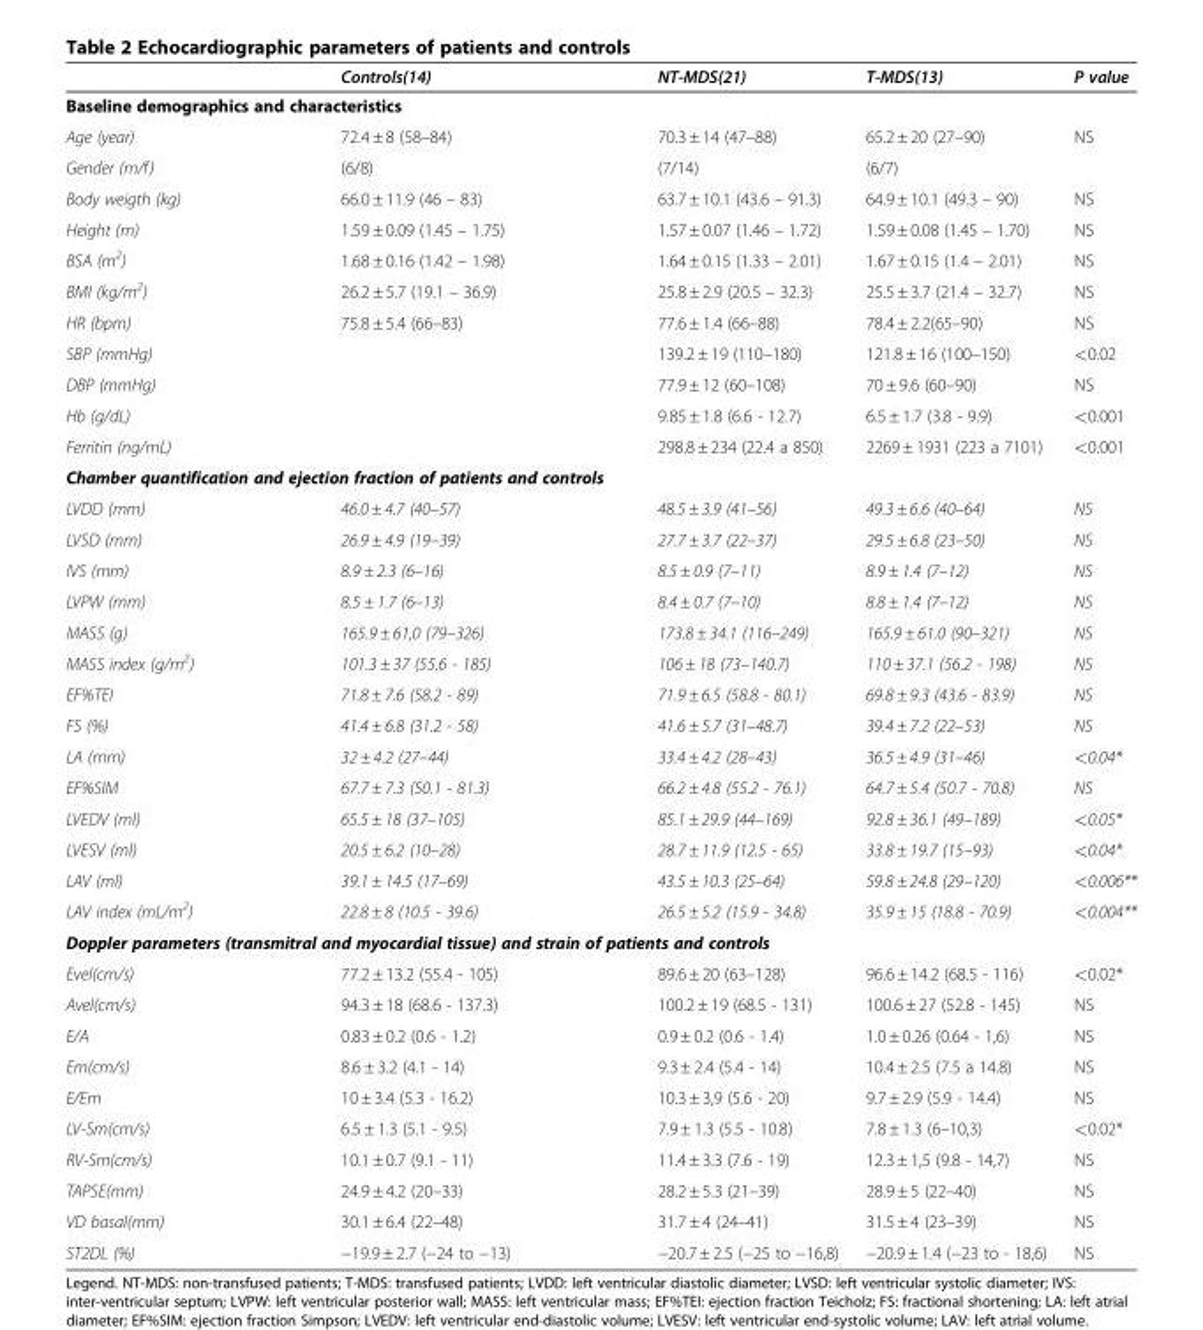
<table><thead><tr><td></td><td>Controls(14)</td><td>NT-MDS(21)</td><td>T-MDS(13)</td><td>P value</td></tr></thead><tbody><tr><td colspan="5">Baseline demographics and characteristics</td></tr><tr><td>Age (year)</td><td>72.4 ± 8 (58–84)</td><td>70.3 ± 14 (47–88)</td><td>65.2 ± 20 (27–90)</td><td>NS</td></tr><tr><td>Gender (m/f)</td><td>(6/8)</td><td>(7/14)</td><td>(6/7)</td><td></td></tr><tr><td>Body weigth (kg)</td><td>66.0 ± 11.9 (46 – 83)</td><td>63.7 ± 10.1 (43.6 – 91.3)</td><td>64.9 ± 10.1 (49.3 – 90)</td><td>NS</td></tr><tr><td>Height (m)</td><td>1.59 ± 0.09 (1.45 – 1.75)</td><td>1.57 ± 0.07 (1.46 – 1.72)</td><td>1.59 ± 0.08 (1.45 – 1.70)</td><td>NS</td></tr><tr><td>BSA (m<sup>2</sup>)</td><td>1.68 ± 0.16 (1.42 – 1.98)</td><td>1.64 ± 0.15 (1.33 – 2.01)</td><td>1.67 ± 0.15 (1.4 – 2.01)</td><td>NS</td></tr><tr><td>BMI (kg/m<sup>2</sup>)</td><td>26.2 ± 5.7 (19.1 – 36.9)</td><td>25.8 ± 2.9 (20.5 – 32.3)</td><td>25.5 ± 3.7 (21.4 – 32.7)</td><td>NS</td></tr><tr><td>HR (bpm)</td><td>75.8 ± 5.4 (66–83)</td><td>77.6 ± 1.4 (66–88)</td><td>78.4 ± 2.2(65–90)</td><td>NS</td></tr><tr><td>SBP (mmHg)</td><td></td><td>139.2 ± 19 (110–180)</td><td>121.8 ± 16 (100–150)</td><td>&lt;0.02</td></tr><tr><td>DBP (mmHg)</td><td></td><td>77.9 ± 12 (60–108)</td><td>70 ± 9.6 (60–90)</td><td>NS</td></tr><tr><td>Hb (g/dL)</td><td></td><td>9.85 ± 1.8 (6.6 - 12.7)</td><td>6.5 ± 1.7 (3.8 - 9.9)</td><td>&lt;0.001</td></tr><tr><td>Ferritin (ng/mL)</td><td></td><td>298.8 ± 234 (22.4 a 850)</td><td>2269 ± 1931 (223 a 7101)</td><td>&lt;0.001</td></tr><tr><td colspan="5">Chamber quantification and ejection fraction of patients and controls</td></tr><tr><td>LVDD (mm)</td><td>46.0 ± 4.7 (40–57)</td><td>48.5 ± 3.9 (41–56)</td><td>49.3 ± 6.6 (40–64)</td><td>NS</td></tr><tr><td>LVSD (mm)</td><td>26.9 ± 4.9 (19–39)</td><td>27.7 ± 3.7 (22–37)</td><td>29.5 ± 6.8 (23–50)</td><td>NS</td></tr><tr><td>IVS (mm)</td><td>8.9 ± 2.3 (6–16)</td><td>8.5 ± 0.9 (7–11)</td><td>8.9 ± 1.4 (7–12)</td><td>NS</td></tr><tr><td>LVPW (mm)</td><td>8.5 ± 1.7 (6–13)</td><td>8.4 ± 0.7 (7–10)</td><td>8.8 ± 1.4 (7–12)</td><td>NS</td></tr><tr><td>MASS (g)</td><td>165.9 ± 61,0 (79–326)</td><td>173.8 ± 34.1 (116–249)</td><td>165.9 ± 61.0 (90–321)</td><td>NS</td></tr><tr><td>MASS index (g/m<sup>2</sup>)</td><td>101.3 ± 37 (55.6 - 185)</td><td>106 ± 18 (73–140.7)</td><td>110 ± 37.1 (56.2 - 198)</td><td>NS</td></tr><tr><td>EF%TEI</td><td>71.8 ± 7.6 (58.2 - 89)</td><td>71.9 ± 6.5 (58.8 - 80.1)</td><td>69.8 ± 9.3 (43.6 - 83.9)</td><td>NS</td></tr><tr><td>FS (%)</td><td>41.4 ± 6.8 (31.2 - 58)</td><td>41.6 ± 5.7 (31–48.7)</td><td>39.4 ± 7.2 (22–53)</td><td>NS</td></tr><tr><td>LA (mm)</td><td>32 ± 4.2 (27–44)</td><td>33.4 ± 4.2 (28–43)</td><td>36.5 ± 4.9 (31–46)</td><td>&lt;0.04*</td></tr><tr><td>EF%SIM</td><td>67.7 ± 7.3 (50.1 - 81.3)</td><td>66.2 ± 4.8 (55.2 - 76.1)</td><td>64.7 ± 5.4 (50.7 - 70.8)</td><td>NS</td></tr><tr><td>LVEDV (ml)</td><td>65.5 ± 18 (37–105)</td><td>85.1 ± 29.9 (44–169)</td><td>92.8 ± 36.1 (49–189)</td><td>&lt;0.05*</td></tr><tr><td>LVESV (ml)</td><td>20.5 ± 6.2 (10–28)</td><td>28.7 ± 11.9 (12.5 - 65)</td><td>33.8 ± 19.7 (15–93)</td><td>&lt;0.04*</td></tr><tr><td>LAV (ml)</td><td>39.1 ± 14.5 (17–69)</td><td>43.5 ± 10.3 (25–64)</td><td>59.8 ± 24.8 (29–120)</td><td>&lt;0.006**</td></tr><tr><td>LAV index (mL/m<sup>2</sup>)</td><td>22.8 ± 8 (10.5 - 39.6)</td><td>26.5 ± 5.2 (15.9 - 34.8)</td><td>35.9 ± 15 (18.8 - 70.9)</td><td>&lt;0.004**</td></tr><tr><td colspan="5">Doppler parameters (transmitral and myocardial tissue) and strain of patients and controls</td></tr><tr><td>Evel(cm/s)</td><td>77.2 ± 13.2 (55.4 - 105)</td><td>89.6 ± 20 (63–128)</td><td>96.6 ± 14.2 (68.5 - 116)</td><td>&lt;0.02*</td></tr><tr><td>Avel(cm/s)</td><td>94.3 ± 18 (68.6 - 137.3)</td><td>100.2 ± 19 (68.5 - 131)</td><td>100.6 ± 27 (52.8 - 145)</td><td>NS</td></tr><tr><td>E/A</td><td>0.83 ± 0.2 (0.6 - 1.2)</td><td>0.9 ± 0.2 (0.6 - 1.4)</td><td>1.0 ± 0.26 (0.64 - 1,6)</td><td>NS</td></tr><tr><td>Em(cm/s)</td><td>8.6 ± 3.2 (4.1 - 14)</td><td>9.3 ± 2.4 (5.4 - 14)</td><td>10.4 ± 2.5 (7.5 a 14.8)</td><td>NS</td></tr><tr><td>E/Em</td><td>10 ± 3.4 (5.3 - 16.2)</td><td>10.3 ± 3,9 (5.6 - 20)</td><td>9.7 ± 2.9 (5.9 - 14.4)</td><td>NS</td></tr><tr><td>LV-Sm(cm/s)</td><td>6.5 ± 1.3 (5.1 - 9.5)</td><td>7.9 ± 1.3 (5.5 - 10.8)</td><td>7.8 ± 1.3 (6–10,3)</td><td>&lt;0.02*</td></tr><tr><td>RV-Sm(cm/s)</td><td>10.1 ± 0.7 (9.1 - 11)</td><td>11.4 ± 3.3 (7.6 - 19)</td><td>12.3 ± 1,5 (9.8 - 14,7)</td><td>NS</td></tr><tr><td>TAPSE(mm)</td><td>24.9 ± 4.2 (20–33)</td><td>28.2 ± 5.3 (21–39)</td><td>28.9 ± 5 (22–40)</td><td>NS</td></tr><tr><td>VD basal(mm)</td><td>30.1 ± 6.4 (22–48)</td><td>31.7 ± 4 (24–41)</td><td>31.5 ± 4 (23–39)</td><td>NS</td></tr><tr><td>ST2DL (%)</td><td>−19.9 ± 2.7 (−24 to −13)</td><td>−20.7 ± 2.5 (−25 to −16,8)</td><td>−20.9 ± 1.4 (−23 to - 18,6)</td><td>NS</td></tr></tbody></table>